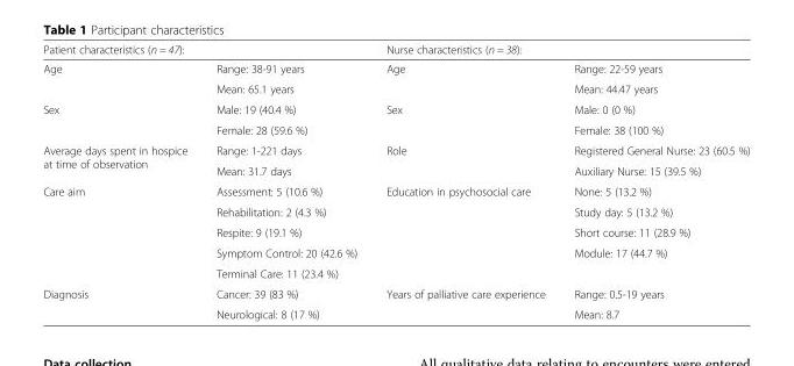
<table><thead><tr><td>Patient characteristics (n = 47):</td><td></td><td>Nurse characteristics (n = 38):</td><td></td></tr></thead><tbody><tr><td rowspan="2">Age</td><td>Range: 38-91 years</td><td>Age</td><td>Range: 22-59 years</td></tr><tr><td>Mean: 65.1 years</td><td></td><td>Mean: 44.47 years</td></tr><tr><td rowspan="2">Sex</td><td>Male: 19 (40.4 %)</td><td>Sex</td><td>Male: 0 (0 %)</td></tr><tr><td>Female: 28 (59.6 %)</td><td></td><td>Female: 38 (100 %)</td></tr><tr><td rowspan="2">Average days spent in hospice at time of observation</td><td>Range: 1-221 days</td><td>Role</td><td>Registered General Nurse: 23 (60.5 %)</td></tr><tr><td>Mean: 31.7 days</td><td></td><td>Auxiliary Nurse: 15 (39.5 %)</td></tr><tr><td rowspan="5">Care aim</td><td>Assessment: 5 (10.6 %)</td><td rowspan="5">Education in psychosocial care</td><td>None: 5 (13.2 %)</td></tr><tr><td>Rehabilitation: 2 (4.3 %)</td><td>Study day: 5 (13.2 %)</td></tr><tr><td>Respite: 9 (19.1 %)</td><td>Short course: 11 (28.9 %)</td></tr><tr><td>Symptom Control: 20 (42.6 %)</td><td rowspan="2">Module: 17 (44.7 %)</td></tr><tr><td>Terminal Care: 11 (23.4 %)</td></tr><tr><td rowspan="2">Diagnosis</td><td>Cancer: 39 (83 %)</td><td rowspan="2">Years of palliative care experience</td><td>Range: 0.5-19 years</td></tr><tr><td>Neurological: 8 (17 %)</td><td>Mean: 8.7</td></tr></tbody></table>